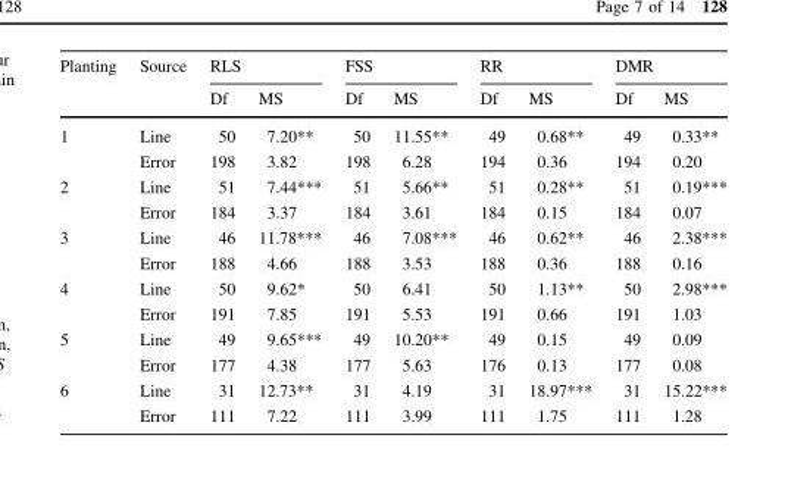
<table><thead><tr><td rowspan="2">Planting</td><td rowspan="2">Source</td><td colspan="2">RLS</td><td colspan="2">FSS</td><td colspan="2">RR</td><td colspan="2">DMR</td></tr><tr><td>Df</td><td>MS</td><td>Df</td><td>MS</td><td>Df</td><td>MS</td><td>Df</td><td>MS</td></tr></thead><tbody><tr><td rowspan="2">1</td><td>Line</td><td>50</td><td>7.20**</td><td>50</td><td>11.55**</td><td>49</td><td>0.68**</td><td>49</td><td>0.33**</td></tr><tr><td>Error</td><td>198</td><td>3.82</td><td>198</td><td>6.28</td><td>194</td><td>0.36</td><td>194</td><td>0.20</td></tr><tr><td rowspan="2">2</td><td>Line</td><td>51</td><td>7.44***</td><td>51</td><td>5.66**</td><td>51</td><td>0.28**</td><td>51</td><td>0.19***</td></tr><tr><td>Error</td><td>184</td><td>3.37</td><td>184</td><td>3.61</td><td>184</td><td>0.15</td><td>184</td><td>0.07</td></tr><tr><td rowspan="2">3</td><td>Line</td><td>46</td><td>11.78***</td><td>46</td><td>7.08***</td><td>46</td><td>0.62**</td><td>46</td><td>2.38***</td></tr><tr><td>Error</td><td>188</td><td>4.66</td><td>188</td><td>3.53</td><td>188</td><td>0.36</td><td>188</td><td>0.16</td></tr><tr><td rowspan="2">4</td><td>Line</td><td>50</td><td>9.62*</td><td>50</td><td>6.41</td><td>50</td><td>1.13**</td><td>50</td><td>2.98***</td></tr><tr><td>Error</td><td>191</td><td>7.85</td><td>191</td><td>5.53</td><td>191</td><td>0.66</td><td>191</td><td>1.03</td></tr><tr><td rowspan="2">5</td><td>Line</td><td>49</td><td>9.65***</td><td>49</td><td>10.20**</td><td>49</td><td>0.15</td><td>49</td><td>0.09</td></tr><tr><td>Error</td><td>177</td><td>4.38</td><td>177</td><td>5.63</td><td>176</td><td>0.13</td><td>177</td><td>0.08</td></tr><tr><td rowspan="2">6</td><td>Line</td><td>31</td><td>12.73**</td><td>31</td><td>4.19</td><td>31</td><td>18.97***</td><td>31</td><td>15.22***</td></tr><tr><td>Error</td><td>111</td><td>7.22</td><td>111</td><td>3.99</td><td>111</td><td>1.75</td><td>111</td><td>1.28</td></tr></tbody></table>